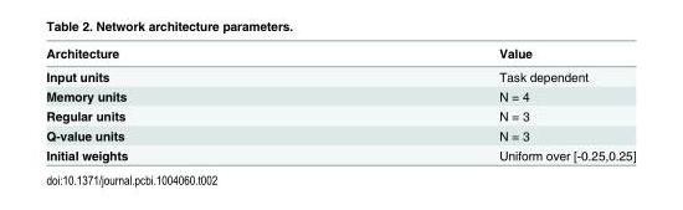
<table><thead><tr><td>Architecture</td><td>Value</td></tr></thead><tbody><tr><td>Input units</td><td>Task dependent</td></tr><tr><td>Memory units</td><td>N = 4</td></tr><tr><td>Regular units</td><td>N = 3</td></tr><tr><td>Q-value units</td><td>N = 3</td></tr><tr><td>Initial weights</td><td>Uniform over [-0.25,0.25]</td></tr></tbody></table>